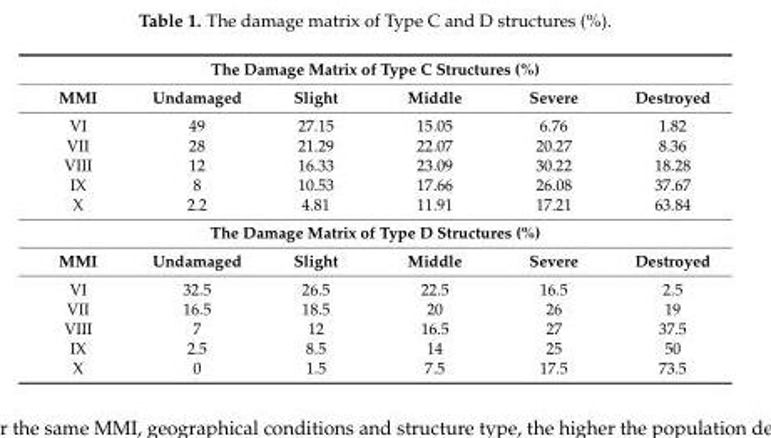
<table><tbody><tr><td colspan="6">The Damage Matrix of Type C Structures (%)</td></tr><tr><td>MMI</td><td>Undamaged</td><td>Slight</td><td>Middle</td><td>Severe</td><td>Destroyed</td></tr><tr><td>VI</td><td>49</td><td>27.15</td><td>15.05</td><td>6.76</td><td>1.82</td></tr><tr><td>VII</td><td>28</td><td>21.29</td><td>22.07</td><td>20.27</td><td>8.36</td></tr><tr><td>VIII</td><td>12</td><td>16.33</td><td>23.09</td><td>30.22</td><td>18.28</td></tr><tr><td>IX</td><td>8</td><td>10.53</td><td>17.66</td><td>26.08</td><td>37.67</td></tr><tr><td>X</td><td>2.2</td><td>4.81</td><td>11.91</td><td>17.21</td><td>63.84</td></tr><tr><td colspan="6">The Damage Matrix of Type D Structures (%)</td></tr><tr><td>MMI</td><td>Undamaged</td><td>Slight</td><td>Middle</td><td>Severe</td><td>Destroyed</td></tr><tr><td>VI</td><td>32.5</td><td>26.5</td><td>22.5</td><td>16.5</td><td>2.5</td></tr><tr><td>VII</td><td>16.5</td><td>18.5</td><td>20</td><td>26</td><td>19</td></tr><tr><td>VIII</td><td>7</td><td>12</td><td>16.5</td><td>27</td><td>37.5</td></tr><tr><td>IX</td><td>2.5</td><td>8.5</td><td>14</td><td>25</td><td>50</td></tr><tr><td>X</td><td>0</td><td>1.5</td><td>7.5</td><td>17.5</td><td>73.5</td></tr></tbody></table>